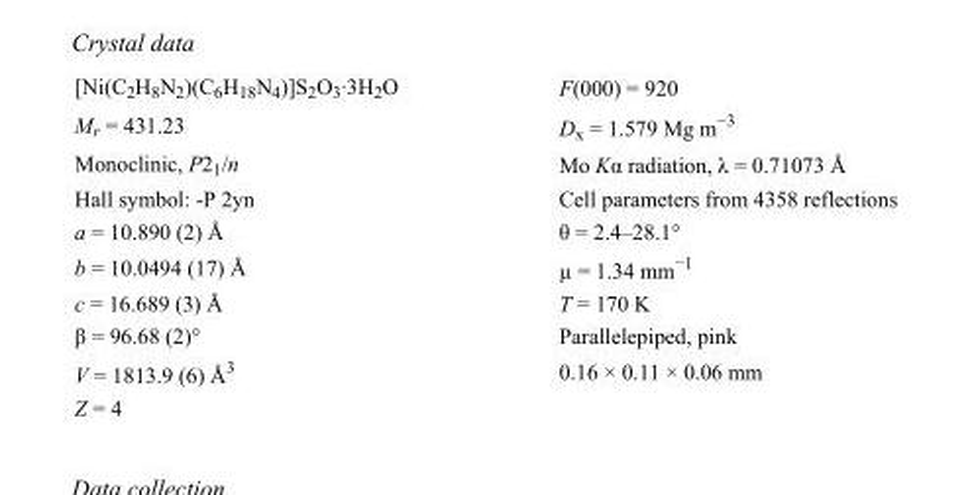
<table><tbody><tr><td>[Ni(C<sub>2</sub>H<sub>8</sub>N<sub>2</sub>)(C<sub>6</sub>H<sub>18</sub>N<sub>4</sub>)]S<sub>2</sub>O<sub>3</sub>·3H<sub>2</sub>O</td><td>F(000) = 920</td></tr><tr><td>M<sub>r</sub> = 431.23</td><td>D<sub>x</sub> = 1.579 Mg m<sup>−3</sup></td></tr><tr><td>Monoclinic, P2<sub>1</sub>/n</td><td>Mo Kα radiation, λ = 0.71073 Å</td></tr><tr><td>Hall symbol: -P 2yn</td><td>Cell parameters from 4358 reflections</td></tr><tr><td>a = 10.890 (2) Å</td><td>θ = 2.4–28.1°</td></tr><tr><td>b = 10.0494 (17) Å</td><td>µ = 1.34 mm<sup>−1</sup></td></tr><tr><td>c = 16.689 (3) Å</td><td>T = 170 K</td></tr><tr><td>β = 96.68 (2)°</td><td>Parallelepiped, pink</td></tr><tr><td>V = 1813.9 (6) Å<sup>3</sup></td><td>0.16 × 0.11 × 0.06 mm</td></tr><tr><td>Z = 4</td><td></td></tr></tbody></table>